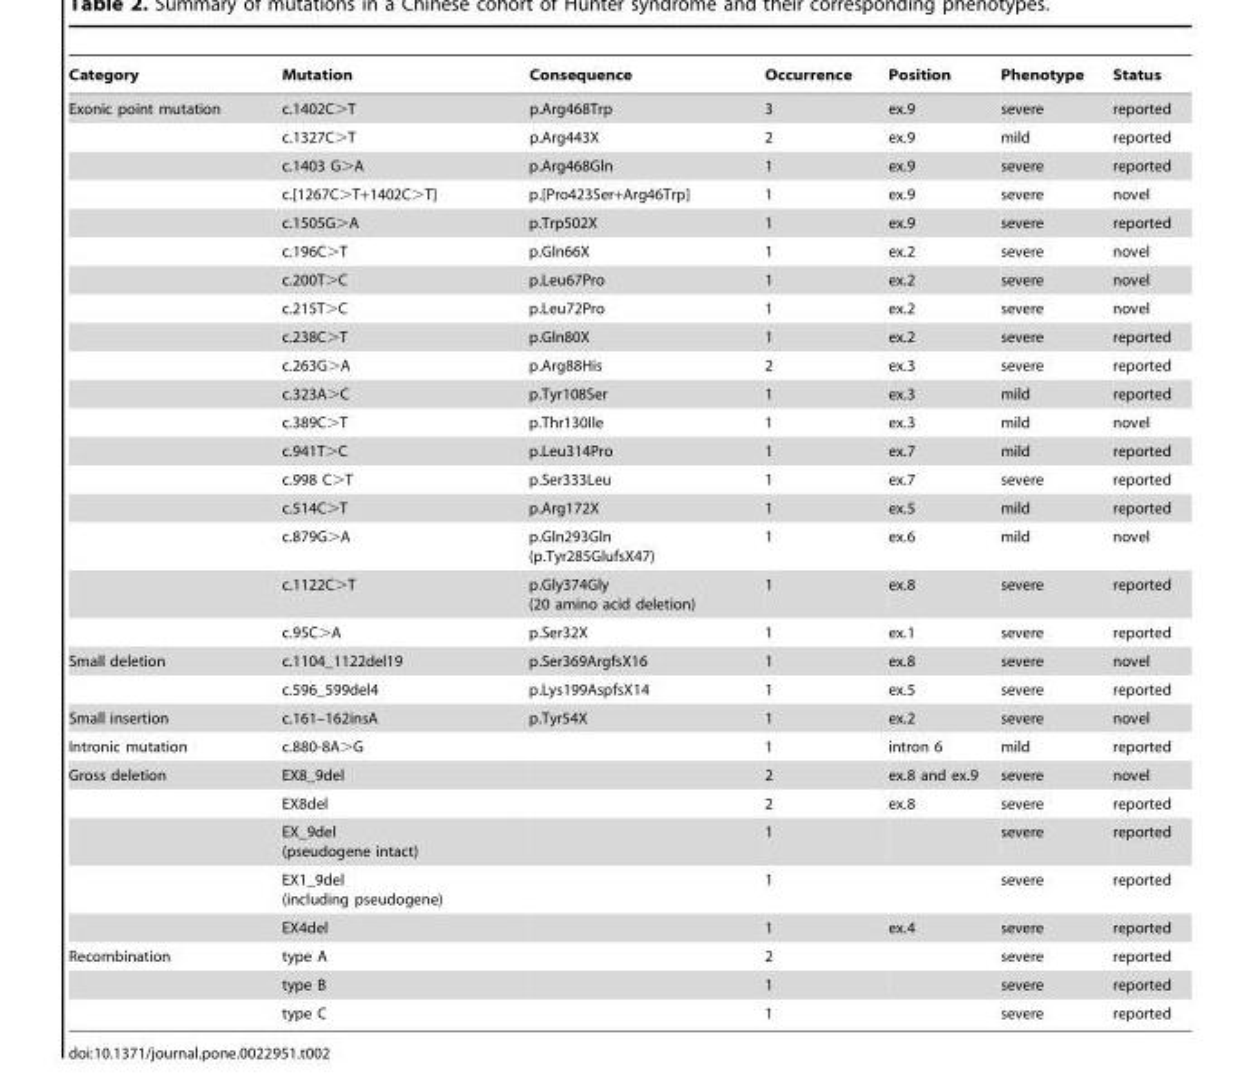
<table><thead><tr><td>Category</td><td>Mutation</td><td>Consequence</td><td>Occurrence</td><td>Position</td><td>Phenotype</td><td>Status</td></tr></thead><tbody><tr><td rowspan="18">Exonic point mutation</td><td>c.1402C&gt;T</td><td>p.Arg468Trp</td><td>3</td><td>ex.9</td><td>severe</td><td>reported</td></tr><tr><td>c.1327C&gt;T</td><td>p.Arg443X</td><td>2</td><td>ex.9</td><td>mild</td><td>reported</td></tr><tr><td>c.1403 G&gt;A</td><td>p.Arg468Gln</td><td>1</td><td>ex.9</td><td>severe</td><td>reported</td></tr><tr><td>c.[1267C&gt;T+1402C&gt;T]</td><td>p.[Pro423Ser+Arg46Trp]</td><td>1</td><td>ex.9</td><td>severe</td><td>novel</td></tr><tr><td>c.1505G&gt;A</td><td>p.Trp502X</td><td>1</td><td>ex.9</td><td>severe</td><td>reported</td></tr><tr><td>c.196C&gt;T</td><td>p.Gln66X</td><td>1</td><td>ex.2</td><td>severe</td><td>novel</td></tr><tr><td>c.200T&gt;C</td><td>p.Leu67Pro</td><td>1</td><td>ex.2</td><td>severe</td><td>novel</td></tr><tr><td>c.215T&gt;C</td><td>p.Leu72Pro</td><td>1</td><td>ex.2</td><td>severe</td><td>novel</td></tr><tr><td>c.238C&gt;T</td><td>p.Gln80X</td><td>1</td><td>ex.2</td><td>severe</td><td>reported</td></tr><tr><td>c.263G&gt;A</td><td>p.Arg88His</td><td>2</td><td>ex.3</td><td>severe</td><td>reported</td></tr><tr><td>c.323A&gt;C</td><td>p.Tyr108Ser</td><td>1</td><td>ex.3</td><td>mild</td><td>reported</td></tr><tr><td>c.389C&gt;T</td><td>p.Thr130Ile</td><td>1</td><td>ex.3</td><td>mild</td><td>novel</td></tr><tr><td>c.941T&gt;C</td><td>p.Leu314Pro</td><td>1</td><td>ex.7</td><td>mild</td><td>reported</td></tr><tr><td>c.998 C&gt;T</td><td>p.Ser333Leu</td><td>1</td><td>ex.7</td><td>severe</td><td>reported</td></tr><tr><td>c.514C&gt;T</td><td>p.Arg172X</td><td>1</td><td>ex.5</td><td>mild</td><td>reported</td></tr><tr><td>c.879G&gt;A</td><td>p.Gln293Gln (p.Tyr285GlufsX47)</td><td>1</td><td>ex.6</td><td>mild</td><td>novel</td></tr><tr><td>c.1122C&gt;T</td><td>p.Gly374Gly (20 amino acid deletion)</td><td>1</td><td>ex.8</td><td>severe</td><td>reported</td></tr><tr><td>c.95C&gt;A</td><td>p.Ser32X</td><td>1</td><td>ex.1</td><td>severe</td><td>reported</td></tr><tr><td rowspan="2">Small deletion</td><td>c.1104_1122del19</td><td>p.Ser369ArgfsX16</td><td>1</td><td>ex.8</td><td>severe</td><td>novel</td></tr><tr><td>c.596_599del4</td><td>p.Lys199AspfsX14</td><td>1</td><td>ex.5</td><td>severe</td><td>reported</td></tr><tr><td>Small insertion</td><td>c.161–162insA</td><td>p.Tyr54X</td><td>1</td><td>ex.2</td><td>severe</td><td>novel</td></tr><tr><td>Intronic mutation</td><td>c.880-8A&gt;G</td><td></td><td>1</td><td>intron 6</td><td>mild</td><td>reported</td></tr><tr><td rowspan="5">Gross deletion</td><td>EX8_9del</td><td></td><td>2</td><td>ex.8 and ex.9</td><td>severe</td><td>novel</td></tr><tr><td>EX8del</td><td></td><td>2</td><td>ex.8</td><td>severe</td><td>reported</td></tr><tr><td>EX_9del (pseudogene intact)</td><td></td><td>1</td><td></td><td>severe</td><td>reported</td></tr><tr><td>EX1_9del (including pseudogene)</td><td></td><td>1</td><td></td><td>severe</td><td>reported</td></tr><tr><td>EX4del</td><td></td><td>1</td><td>ex.4</td><td>severe</td><td>reported</td></tr><tr><td rowspan="3">Recombination</td><td>type A</td><td></td><td>2</td><td></td><td>severe</td><td>reported</td></tr><tr><td>type B</td><td></td><td>1</td><td></td><td>severe</td><td>reported</td></tr><tr><td>type C</td><td></td><td>1</td><td></td><td>severe</td><td>reported</td></tr></tbody></table>